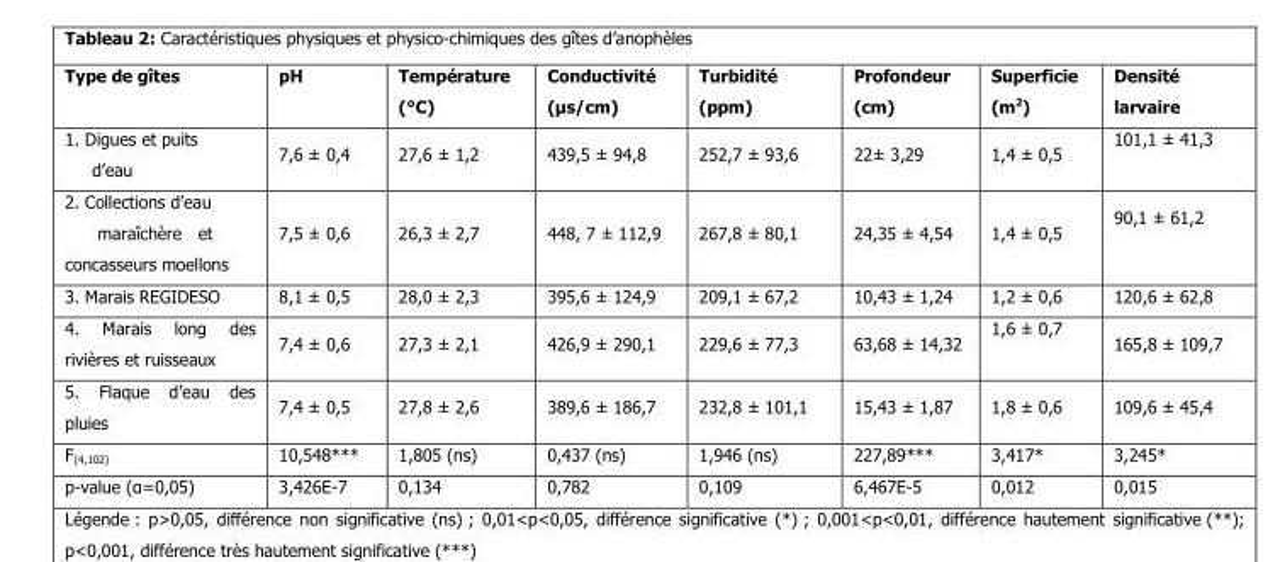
<table><thead><tr><td>Type de gîtes</td><td>pH</td><td>Température (°C)</td><td>Conductivité (µs/cm)</td><td>Turbidité (ppm)</td><td>Profondeur (cm)</td><td>Superficie (m<sup>2</sup>)</td><td>Densité larvaire</td></tr></thead><tbody><tr><td>1. Digues et puits d’eau</td><td>7,6 ± 0,4</td><td>27,6 ± 1,2</td><td>439,5 ± 94,8</td><td>252,7 ± 93,6</td><td>22± 3,29</td><td>1,4 ± 0,5</td><td>101,1 ± 41,3</td></tr><tr><td>2. Collections d’eau maraîchère et concasseurs moellons</td><td>7,5 ± 0,6</td><td>26,3 ± 2,7</td><td>448, 7 ± 112,9</td><td>267,8 ± 80,1</td><td>24,35 ± 4,54</td><td>1,4 ± 0,5</td><td>90,1 ± 61,2</td></tr><tr><td>3. Marais REGIDESO</td><td>8,1 ± 0,5</td><td>28,0 ± 2,3</td><td>395,6 ± 124,9</td><td>209,1 ± 67,2</td><td>10,43 ± 1,24</td><td>1,2 ± 0,6</td><td>120,6 ± 62,8</td></tr><tr><td>4. Marais long des rivières et ruisseaux</td><td>7,4 ± 0,6</td><td>27,3 ± 2,1</td><td>426,9 ± 290,1</td><td>229,6 ± 77,3</td><td>63,68 ± 14,32</td><td>1,6 ± 0,7</td><td>165,8 ± 109,7</td></tr><tr><td>5. Flaque d’eau des pluies</td><td>7,4 ± 0,5</td><td>27,8 ± 2,6</td><td>389,6 ± 186,7</td><td>232,8 ± 101,1</td><td>15,43 ± 1,87</td><td>1,8 ± 0,6</td><td>109,6 ± 45,4</td></tr><tr><td>F<sub>(4,102)</sub></td><td>10,548***</td><td>1,805 (ns)</td><td>0,437 (ns)</td><td>1,946 (ns)</td><td>227,89***</td><td>3,417*</td><td>3,245*</td></tr><tr><td>p-value (α=0,05)</td><td>3,426E-7</td><td>0,134</td><td>0,782</td><td>0,109</td><td>6,467E-5</td><td>0,012</td><td>0,015</td></tr></tbody></table>